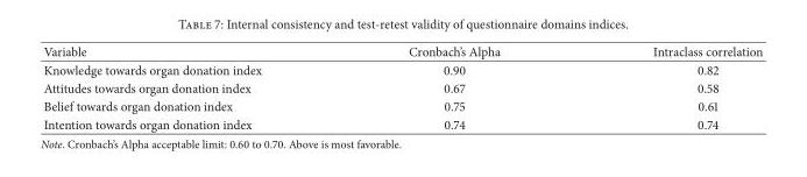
<table><thead><tr><td>Variable</td><td>Cronbach’s Alpha</td><td>Intraclass correlation</td></tr></thead><tbody><tr><td>Knowledge towards organ donation index</td><td>0.90</td><td>0.82</td></tr><tr><td>Attitudes towards organ donation index</td><td>0.67</td><td>0.58</td></tr><tr><td>Belief towards organ donation index</td><td>0.75</td><td>0.61</td></tr><tr><td>Intention towards organ donation index</td><td>0.74</td><td>0.74</td></tr></tbody></table>